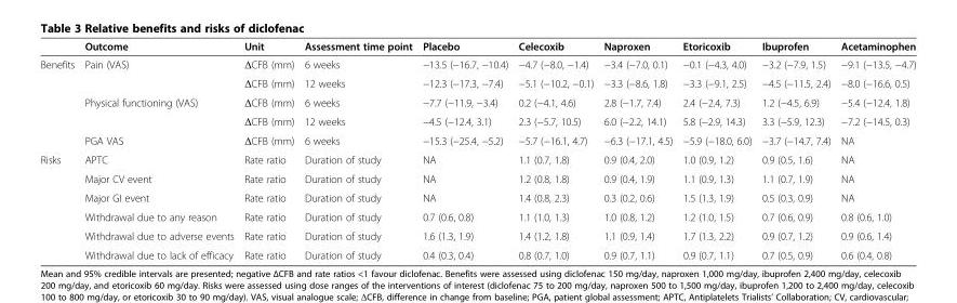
<table><thead><tr><td></td><td>Outcome</td><td>Unit</td><td>Assessment time point</td><td>Placebo</td><td>Celecoxib</td><td>Naproxen</td><td>Etoricoxib</td><td>Ibuprofen</td><td>Acetaminophen</td></tr></thead><tbody><tr><td rowspan="5">Benefits</td><td rowspan="2">Pain (VAS)</td><td>ΔCFB (mm)</td><td>6 weeks</td><td>−13.5 (−16.7, −10.4)</td><td>−4.7 (−8.0, −1.4)</td><td>−3.4 (−7.0, 0.1)</td><td>−0.1 (−4.3, 4.0)</td><td>−3.2 (−7.9, 1.5)</td><td>−9.1 (−13.5, −4.7)</td></tr><tr><td>ΔCFB (mm)</td><td>12 weeks</td><td>−12.3 (−17.3, −7.4)</td><td>−5.1 (−10.2, −0.1)</td><td>−3.3 (−8.6, 1.8)</td><td>−3.3 (−9.1, 2.5)</td><td>−4.5 (−11.5, 2.4)</td><td>−8.0 (−16.6, 0.5)</td></tr><tr><td rowspan="2">Physical functioning (VAS)</td><td>ΔCFB (mm)</td><td>6 weeks</td><td>−7.7 (−11.9, −3.4)</td><td>0.2 (−4.1, 4.6)</td><td>2.8 (−1.7, 7.4)</td><td>2.4 (−2.4, 7.3)</td><td>1.2 (−4.5, 6.9)</td><td>−5.4 (−12.4, 1.8)</td></tr><tr><td>ΔCFB (mm)</td><td>12 weeks</td><td>−4.5 (−12.4, 3.1)</td><td>2.3 (−5.7, 10.5)</td><td>6.0 (−2.2, 14.1)</td><td>5.8 (−2.9, 14.3)</td><td>3.3 (−5.9, 12.3)</td><td>−7.2 (−14.5, 0.3)</td></tr><tr><td>PGA VAS</td><td>ΔCFB (mm)</td><td>6 weeks</td><td>−15.3 (−25.4, −5.2)</td><td>−5.7 (−16.1, 4.7)</td><td>−6.3 (−17.1, 4.5)</td><td>−5.9 (−18.0, 6.0)</td><td>−3.7 (−14.7, 7.4)</td><td>NA</td></tr><tr><td rowspan="6">Risks</td><td>APTC</td><td>Rate ratio</td><td>Duration of study</td><td>NA</td><td>1.1 (0.7, 1.8)</td><td>0.9 (0.4, 2.0)</td><td>1.0 (0.9, 1.2)</td><td>0.9 (0.5, 1.6)</td><td>NA</td></tr><tr><td>Major CV event</td><td>Rate ratio</td><td>Duration of study</td><td>NA</td><td>1.2 (0.8, 1.8)</td><td>0.9 (0.4, 1.9)</td><td>1.1 (0.9, 1.3)</td><td>1.1 (0.7, 1.9)</td><td>NA</td></tr><tr><td>Major GI event</td><td>Rate ratio</td><td>Duration of study</td><td>NA</td><td>1.4 (0.8, 2.3)</td><td>0.3 (0.2, 0.6)</td><td>1.5 (1.3, 1.9)</td><td>0.5 (0.3, 0.9)</td><td>NA</td></tr><tr><td>Withdrawal due to any reason</td><td>Rate ratio</td><td>Duration of study</td><td>0.7 (0.6, 0.8)</td><td>1.1 (1.0, 1.3)</td><td>1.0 (0.8, 1.2)</td><td>1.2 (1.0, 1.5)</td><td>0.7 (0.6, 0.9)</td><td>0.8 (0.6, 1.0)</td></tr><tr><td>Withdrawal due to adverse events</td><td>Rate ratio</td><td>Duration of study</td><td>1.6 (1.3, 1.9)</td><td>1.4 (1.2, 1.8)</td><td>1.1 (0.9, 1.4)</td><td>1.7 (1.3, 2.2)</td><td>0.9 (0.7, 1.2)</td><td>0.9 (0.6, 1.4)</td></tr><tr><td>Withdrawal due to lack of efficacy</td><td>Rate ratio</td><td>Duration of study</td><td>0.4 (0.3, 0.4)</td><td>0.8 (0.7, 1.0)</td><td>0.9 (0.7, 1.1)</td><td>0.9 (0.7, 1.1)</td><td>0.7 (0.5, 0.9)</td><td>0.6 (0.4, 0.8)</td></tr></tbody></table>